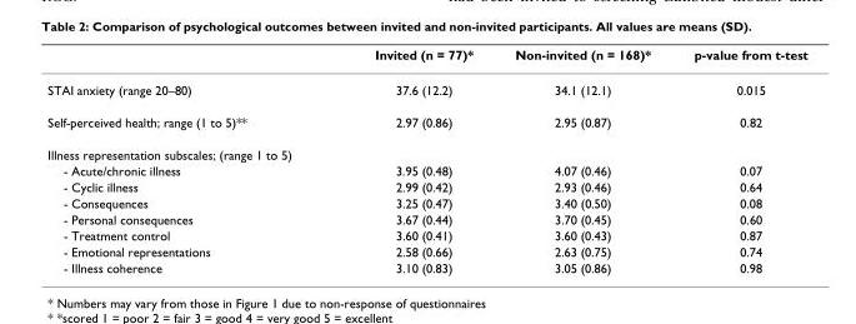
<table><thead><tr><td></td><td>Invited (n = 77)*</td><td>Non-invited (n = 168)*</td><td>p-value from t-test</td></tr></thead><tbody><tr><td>STAI anxiety (range 20–80)</td><td>37.6 (12.2)</td><td>34.1 (12.1)</td><td>0.015</td></tr><tr><td>Self-perceived health; range (1 to 5)**</td><td>2.97 (0.86)</td><td>2.95 (0.87)</td><td>0.82</td></tr><tr><td colspan="4">Illness representation subscales; (range 1 to 5)</td></tr><tr><td>- Acute/chronic illness</td><td>3.95 (0.48)</td><td>4.07 (0.46)</td><td>0.07</td></tr><tr><td>- Cyclic illness</td><td>2.99 (0.42)</td><td>2.93 (0.46)</td><td>0.64</td></tr><tr><td>- Consequences</td><td>3.25 (0.47)</td><td>3.40 (0.50)</td><td>0.08</td></tr><tr><td>- Personal consequences</td><td>3.67 (0.44)</td><td>3.70 (0.45)</td><td>0.60</td></tr><tr><td>- Treatment control</td><td>3.60 (0.41)</td><td>3.60 (0.43)</td><td>0.87</td></tr><tr><td>- Emotional representations</td><td>2.58 (0.66)</td><td>2.63 (0.75)</td><td>0.74</td></tr><tr><td>- Illness coherence</td><td>3.10 (0.83)</td><td>3.05 (0.86)</td><td>0.98</td></tr></tbody></table>